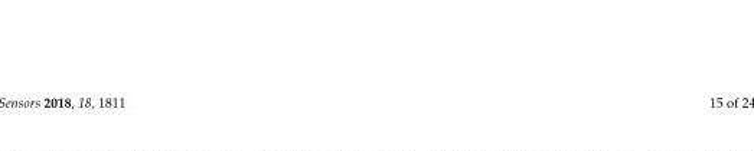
<table><thead><tr><td>Phone Pose</td><td>Hand</td><td>X-Axis</td><td>Y-Axis</td><td>Z-Axis</td></tr></thead><tbody><tr><td rowspan="2">Swinging</td><td>left-hand</td><td>direction of gravity</td><td>Pedestrian’s direction</td><td>Pedestrian’s right side</td></tr><tr><td>right-hand</td><td>opposite direction of gravity</td><td>Pedestrian’s direction</td><td>Pedestrian’s left side</td></tr></tbody></table>